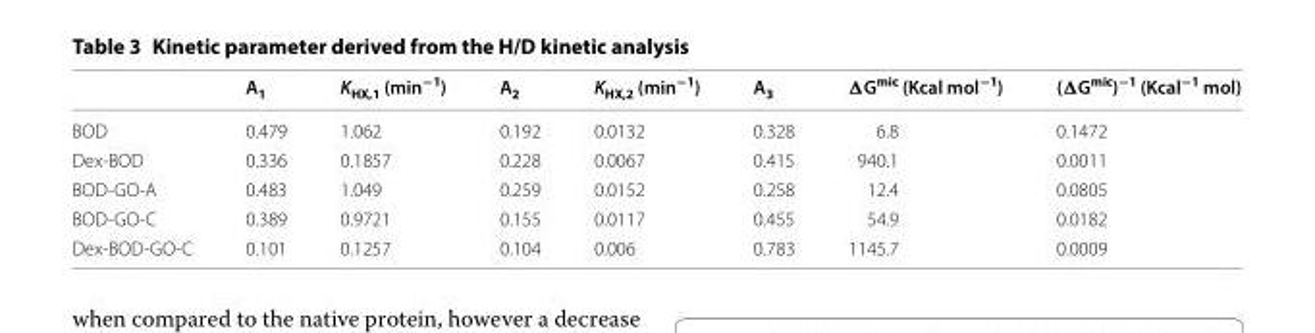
<table><thead><tr><td></td><td>A<sub>1</sub></td><td>K<sub>HX,1</sub> (min<sup>−1</sup>)</td><td>A<sub>2</sub></td><td>K<sub>HX,2</sub> (min<sup>−1</sup>)</td><td>A<sub>3</sub></td><td>ΔG<sup>mic</sup> (Kcal mol<sup>−1</sup>)</td><td>(ΔG<sup>mic</sup>)<sup>−1</sup> (Kcal<sup>−1</sup> mol)</td></tr></thead><tbody><tr><td>BOD</td><td>0.479</td><td>1.062</td><td>0.192</td><td>0.0132</td><td>0.328</td><td>6.8</td><td>0.1472</td></tr><tr><td>Dex‑BOD</td><td>0.336</td><td>0.1857</td><td>0.228</td><td>0.0067</td><td>0.415</td><td>940.1</td><td>0.0011</td></tr><tr><td>BOD‑GO‑A</td><td>0.483</td><td>1.049</td><td>0.259</td><td>0.0152</td><td>0.258</td><td>12.4</td><td>0.0805</td></tr><tr><td>BOD‑GO‑C</td><td>0.389</td><td>0.9721</td><td>0.155</td><td>0.0117</td><td>0.455</td><td>54.9</td><td>0.0182</td></tr><tr><td>Dex‑BOD‑GO‑C</td><td>0.101</td><td>0.1257</td><td>0.104</td><td>0.006</td><td>0.783</td><td>1145.7</td><td>0.0009</td></tr></tbody></table>